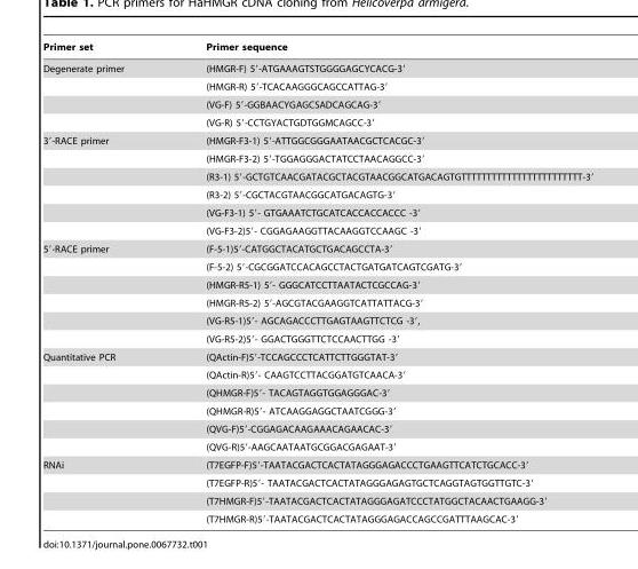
<table><thead><tr><td>Primer set</td><td>Primer sequence</td></tr></thead><tbody><tr><td rowspan="4">Degenerate primer</td><td>(HMGR-F) 5′-ATGAAAGTSTGGGGAGCYCACG-3′</td></tr><tr><td>(HMGR-R) 5′-TCACAAGGGCAGCCATTAG-3′</td></tr><tr><td>(VG-F) 5′-GGBAACYGAGCSADCAGCAG-3′</td></tr><tr><td>(VG-R) 5′-CCTGYACTGDTGGMCAGCC-3′</td></tr><tr><td rowspan="6">3′-RACE primer</td><td>(HMGR-F3-1) 5′-ATTGGCGGGAATAACGCTCACGC-3′</td></tr><tr><td>(HMGR-F3-2) 5′-TGGAGGGACTATCCTAACAGGCC-3′</td></tr><tr><td>(R3-1) 5′-GCTGTCAACGATACGCTACGTAACGGCATGACAGTGTTTTTTTTTTTTTTTTTTTTTTTT-3′</td></tr><tr><td>(R3-2) 5′-CGCTACGTAACGGCATGACAGTG-3′</td></tr><tr><td>(VG-F3-1) 5′- GTGAAATCTGCATCACCACCACCC -3′</td></tr><tr><td>(VG-F3-2)5′- CGGAGAAGGTTACAAGGTCCAAGC -3′</td></tr><tr><td rowspan="6">5′-RACE primer</td><td>(F-5-1)5′-CATGGCTACATGCTGACAGCCTA-3′</td></tr><tr><td>(F-5-2) 5′-CGCGGATCCACAGCCTACTGATGATCAGTCGATG-3′</td></tr><tr><td>(HMGR-R5-1) 5′- GGGCATCCTTAATACTCGCCAG-3′</td></tr><tr><td>(HMGR-R5-2) 5′-AGCGTACGAAGGTCATTATTACG-3′</td></tr><tr><td>(VG-R5-1)5′- AGCAGACCCTTGAGTAAGTTCTCG -3′,</td></tr><tr><td>(VG-R5-2)5′- GGACTGGGTTCTCCAACTTGG -3′</td></tr><tr><td rowspan="6">Quantitative PCR</td><td>(QActin-F)5′-TCCAGCCCTCATTCTTGGGTAT-3′</td></tr><tr><td>(QActin-R)5′- CAAGTCCTTACGGATGTCAACA-3′</td></tr><tr><td>(QHMGR-F)5′- TACAGTAGGTGGAGGGAC-3′</td></tr><tr><td>(QHMGR-R)5′- ATCAAGGAGGCTAATCGGG-3′</td></tr><tr><td>(QVG-F)5′-CGGAGACAAGAAACAGAACAC-3′</td></tr><tr><td>(QVG-R)5′-AAGCAATAATGCGGACGAGAAT-3′</td></tr><tr><td rowspan="4">RNAi</td><td>(T7EGFP-F)5′-TAATACGACTCACTATAGGGAGACCCTGAAGTTCATCTGCACC-3′</td></tr><tr><td>(T7EGFP-R)5′- TAATACGACTCACTATAGGGAGAGTGCTCAGGTAGTGGTTGTC-3′</td></tr><tr><td>(T7HMGR-F)5′-TAATACGACTCACTATAGGGAGATCCCTATGGCTACAACTGAAGG-3′</td></tr><tr><td>(T7HMGR-R)5′-TAATACGACTCACTATAGGGAGACCAGCCGATTTAAGCAC-3′</td></tr></tbody></table>